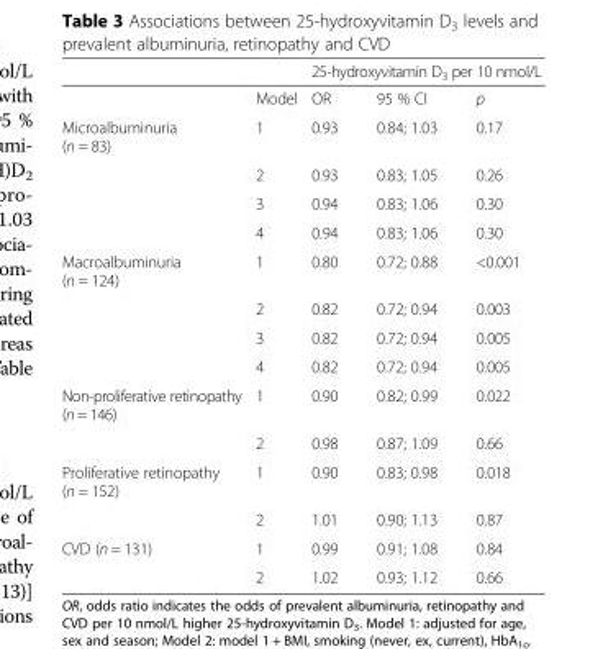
<table><thead><tr><td rowspan="2"></td><td rowspan="2">Model</td><td colspan="3">25-hydroxyvitamin D<sub>3</sub> per 10 nmol/L</td></tr><tr><td>OR</td><td>95 % CI</td><td>p</td></tr></thead><tbody><tr><td rowspan="4">Microalbuminuria (n = 83)</td><td>1</td><td>0.93</td><td>0.84; 1.03</td><td>0.17</td></tr><tr><td>2</td><td>0.93</td><td>0.83; 1.05</td><td>0.26</td></tr><tr><td>3</td><td>0.94</td><td>0.83; 1.06</td><td>0.30</td></tr><tr><td>4</td><td>0.94</td><td>0.83; 1.06</td><td>0.30</td></tr><tr><td rowspan="4">Macroalbuminuria (n = 124)</td><td>1</td><td>0.80</td><td>0.72; 0.88</td><td>&lt;0.001</td></tr><tr><td>2</td><td>0.82</td><td>0.72; 0.94</td><td>0.003</td></tr><tr><td>3</td><td>0.82</td><td>0.72; 0.94</td><td>0.005</td></tr><tr><td>4</td><td>0.82</td><td>0.72; 0.94</td><td>0.005</td></tr><tr><td rowspan="2">Non-proliferative retinopathy (n = 146)</td><td>1</td><td>0.90</td><td>0.82; 0.99</td><td>0.022</td></tr><tr><td>2</td><td>0.98</td><td>0.87; 1.09</td><td>0.66</td></tr><tr><td rowspan="2">Proliferative retinopathy (n = 152)</td><td>1</td><td>0.90</td><td>0.83; 0.98</td><td>0.018</td></tr><tr><td>2</td><td>1.01</td><td>0.90; 1.13</td><td>0.87</td></tr><tr><td rowspan="2">CVD (n = 131)</td><td>1</td><td>0.99</td><td>0.91; 1.08</td><td>0.84</td></tr><tr><td>2</td><td>1.02</td><td>0.93; 1.12</td><td>0.66</td></tr></tbody></table>